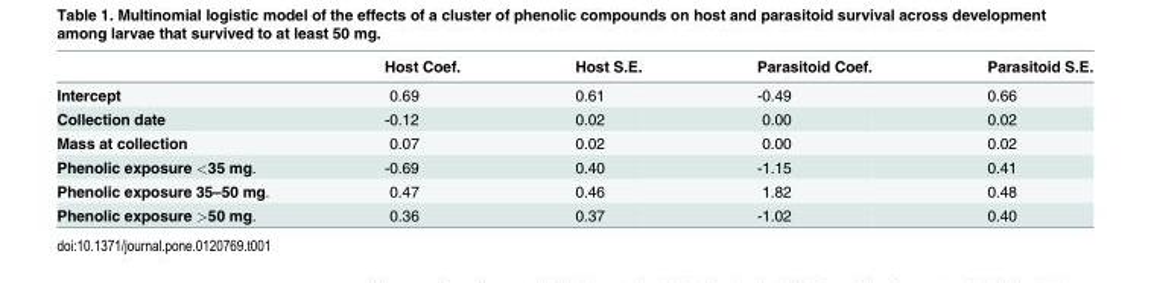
<table><thead><tr><td></td><td>Host Coef.</td><td>Host S.E.</td><td>Parasitoid Coef.</td><td>Parasitoid S.E.</td></tr></thead><tbody><tr><td>Intercept</td><td>0.69</td><td>0.61</td><td>-0.49</td><td>0.66</td></tr><tr><td>Collection date</td><td>-0.12</td><td>0.02</td><td>0.00</td><td>0.02</td></tr><tr><td>Mass at collection</td><td>0.07</td><td>0.02</td><td>0.00</td><td>0.02</td></tr><tr><td>Phenolic exposure &lt;35 mg.</td><td>-0.69</td><td>0.40</td><td>-1.15</td><td>0.41</td></tr><tr><td>Phenolic exposure 35–50 mg.</td><td>0.47</td><td>0.46</td><td>1.82</td><td>0.48</td></tr><tr><td>Phenolic exposure &gt;50 mg.</td><td>0.36</td><td>0.37</td><td>-1.02</td><td>0.40</td></tr></tbody></table>